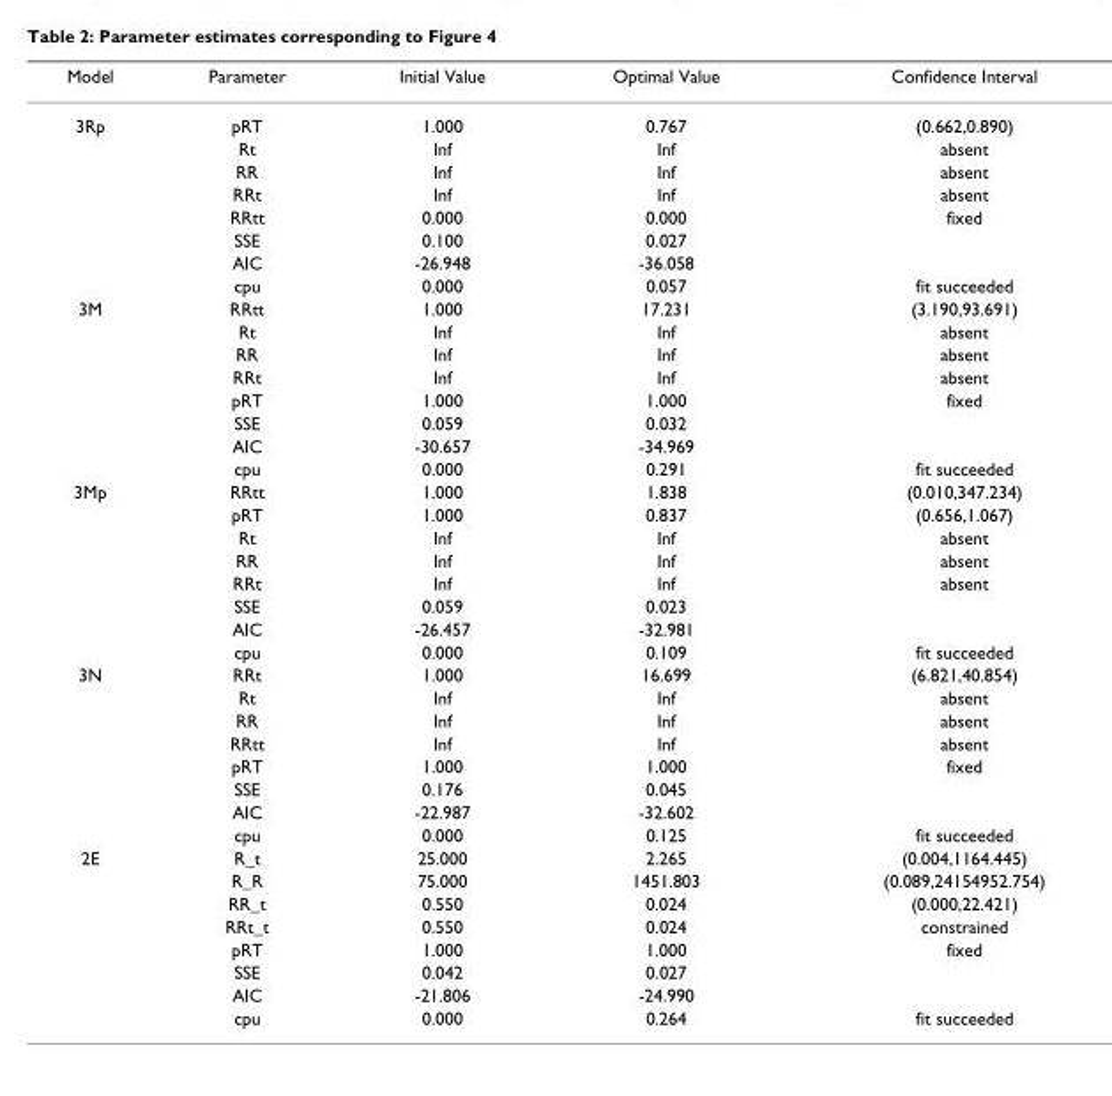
<table><thead><tr><td>Model</td><td>Parameter</td><td>Initial Value</td><td>Optimal Value</td><td>Confidence Interval</td></tr></thead><tbody><tr><td rowspan="8">3Rp</td><td>pRT</td><td>1.000</td><td>0.767</td><td>(0.662,0.890)</td></tr><tr><td>Rt</td><td>Inf</td><td>Inf</td><td>absent</td></tr><tr><td>RR</td><td>Inf</td><td>Inf</td><td>absent</td></tr><tr><td>RRt</td><td>Inf</td><td>Inf</td><td>absent</td></tr><tr><td>RRtt</td><td>0.000</td><td>0.000</td><td>fixed</td></tr><tr><td>SSE</td><td>0.100</td><td>0.027</td><td></td></tr><tr><td>AIC</td><td>-26.948</td><td>-36.058</td><td></td></tr><tr><td>cpu</td><td>0.000</td><td>0.057</td><td>fit succeeded</td></tr><tr><td rowspan="8">3M</td><td>RRtt</td><td>1.000</td><td>17.231</td><td>(3.190,93.691)</td></tr><tr><td>Rt</td><td>Inf</td><td>Inf</td><td>absent</td></tr><tr><td>RR</td><td>Inf</td><td>Inf</td><td>absent</td></tr><tr><td>RRt</td><td>Inf</td><td>Inf</td><td>absent</td></tr><tr><td>pRT</td><td>1.000</td><td>1.000</td><td>fixed</td></tr><tr><td>SSE</td><td>0.059</td><td>0.032</td><td></td></tr><tr><td>AIC</td><td>-30.657</td><td>-34.969</td><td></td></tr><tr><td>cpu</td><td>0.000</td><td>0.291</td><td>fit succeeded</td></tr><tr><td rowspan="8">3Mp</td><td>RRtt</td><td>1.000</td><td>1.838</td><td>(0.010,347.234)</td></tr><tr><td>pRT</td><td>1.000</td><td>0.837</td><td>(0.656,1.067)</td></tr><tr><td>Rt</td><td>Inf</td><td>Inf</td><td>absent</td></tr><tr><td>RR</td><td>Inf</td><td>Inf</td><td>absent</td></tr><tr><td>RRt</td><td>Inf</td><td>Inf</td><td>absent</td></tr><tr><td>SSE</td><td>0.059</td><td>0.023</td><td></td></tr><tr><td>AIC</td><td>-26.457</td><td>-32.981</td><td></td></tr><tr><td>cpu</td><td>0.000</td><td>0.109</td><td>fit succeeded</td></tr><tr><td rowspan="8">3N</td><td>RRt</td><td>1.000</td><td>16.699</td><td>(6.821,40.854)</td></tr><tr><td>Rt</td><td>Inf</td><td>Inf</td><td>absent</td></tr><tr><td>RR</td><td>Inf</td><td>Inf</td><td>absent</td></tr><tr><td>RRtt</td><td>Inf</td><td>Inf</td><td>absent</td></tr><tr><td>pRT</td><td>1.000</td><td>1.000</td><td>fixed</td></tr><tr><td>SSE</td><td>0.176</td><td>0.045</td><td></td></tr><tr><td>AIC</td><td>-22.987</td><td>-32.602</td><td></td></tr><tr><td>cpu</td><td>0.000</td><td>0.125</td><td>fit succeeded</td></tr><tr><td rowspan="8">2E</td><td>R_t</td><td>25.000</td><td>2.265</td><td>(0.004,1164.445)</td></tr><tr><td>R_R</td><td>75.000</td><td>1451.803</td><td>(0.089,24154952.754)</td></tr><tr><td>RR_t</td><td>0.550</td><td>0.024</td><td>(0.000,22.421)</td></tr><tr><td>RRt_t</td><td>0.550</td><td>0.024</td><td>constrained</td></tr><tr><td>pRT</td><td>1.000</td><td>1.000</td><td>fixed</td></tr><tr><td>SSE</td><td>0.042</td><td>0.027</td><td></td></tr><tr><td>AIC</td><td>-21.806</td><td>-24.990</td><td></td></tr><tr><td>cpu</td><td>0.000</td><td>0.264</td><td>fit succeeded</td></tr></tbody></table>